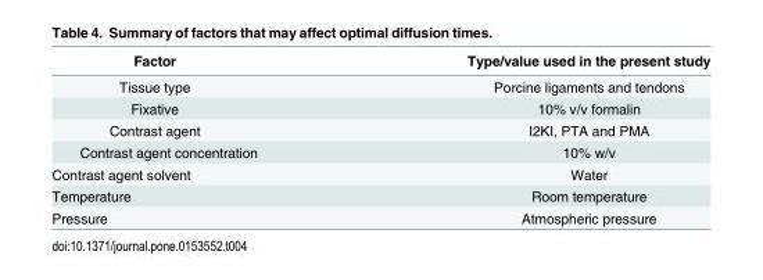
<table><thead><tr><td>Factor</td><td>Type/value used in the present study</td></tr></thead><tbody><tr><td>Tissue type</td><td>Porcine ligaments and tendons</td></tr><tr><td>Fixative</td><td>10% v/v formalin</td></tr><tr><td>Contrast agent</td><td>I2KI, PTA and PMA</td></tr><tr><td>Contrast agent concentration</td><td>10% w/v</td></tr><tr><td>Contrast agent solvent</td><td>Water</td></tr><tr><td>Temperature</td><td>Room temperature</td></tr><tr><td>Pressure</td><td>Atmospheric pressure</td></tr></tbody></table>